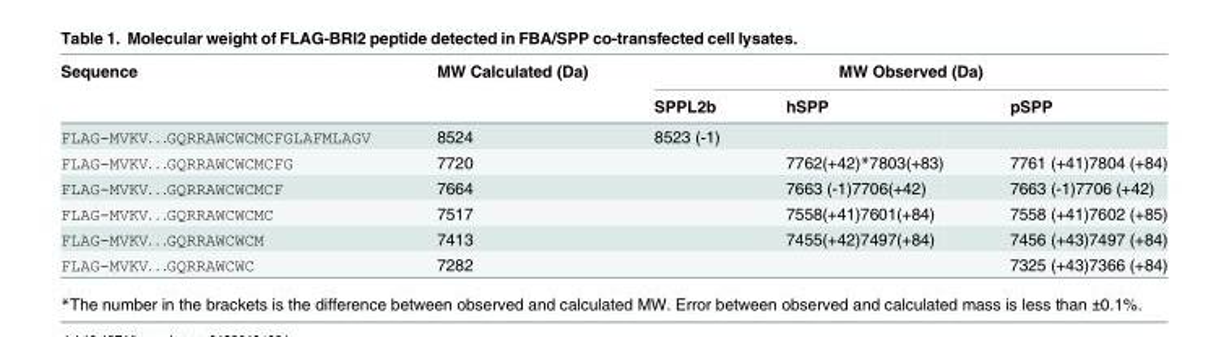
<table><thead><tr><td rowspan="2">Sequence</td><td rowspan="2">MW Calculated (Da)</td><td colspan="3">MW Observed (Da)</td></tr><tr><td>SPPL2b</td><td>hSPP</td><td>pSPP</td></tr></thead><tbody><tr><td>FLAG-MVKV. . .GQRRAWCWCMCFGLAFMLAGV</td><td>8524</td><td>8523 (-1)</td><td></td><td></td></tr><tr><td>FLAG-MVKV. . .GQRRAWCWCMCFG</td><td>7720</td><td></td><td>7762(+42)*7803(+83)</td><td>7761 (+41)7804 (+84)</td></tr><tr><td>FLAG-MVKV. . .GQRRAWCWCMCF</td><td>7664</td><td></td><td>7663 (-1)7706(+42)</td><td>7663 (-1)7706 (+42)</td></tr><tr><td>FLAG-MVKV. . .GQRRAWCWCMC</td><td>7517</td><td></td><td>7558(+41)7601(+84)</td><td>7558 (+41)7602 (+85)</td></tr><tr><td>FLAG-MVKV. . .GQRRAWCWCM</td><td>7413</td><td></td><td>7455(+42)7497(+84)</td><td>7456 (+43)7497 (+84)</td></tr><tr><td>FLAG-MVKV. . .GQRRAWCWC</td><td>7282</td><td></td><td></td><td>7325 (+43)7366 (+84)</td></tr></tbody></table>